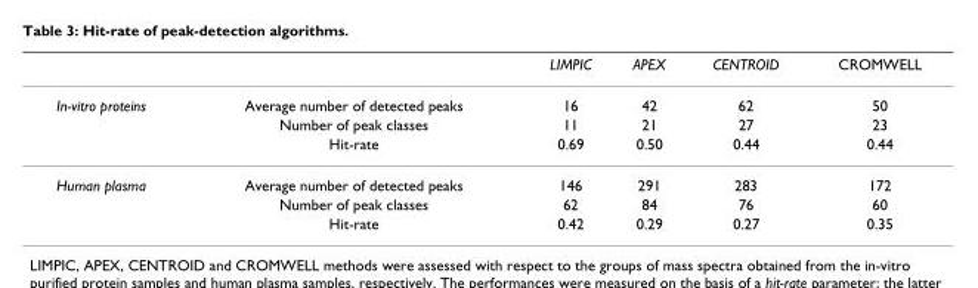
<table><thead><tr><td></td><td></td><td>LIMPIC</td><td>APEX</td><td>CENTROID</td><td>CROMWELL</td></tr></thead><tbody><tr><td rowspan="3">In-vitro proteins</td><td>Average number of detected peaks</td><td>16</td><td>42</td><td>62</td><td>50</td></tr><tr><td>Number of peak classes</td><td>11</td><td>21</td><td>27</td><td>23</td></tr><tr><td>Hit-rate</td><td>0.69</td><td>0.50</td><td>0.44</td><td>0.44</td></tr><tr><td rowspan="3">Human plasma</td><td>Average number of detected peaks</td><td>146</td><td>291</td><td>283</td><td>172</td></tr><tr><td>Number of peak classes</td><td>62</td><td>84</td><td>76</td><td>60</td></tr><tr><td>Hit-rate</td><td>0.42</td><td>0.29</td><td>0.27</td><td>0.35</td></tr></tbody></table>